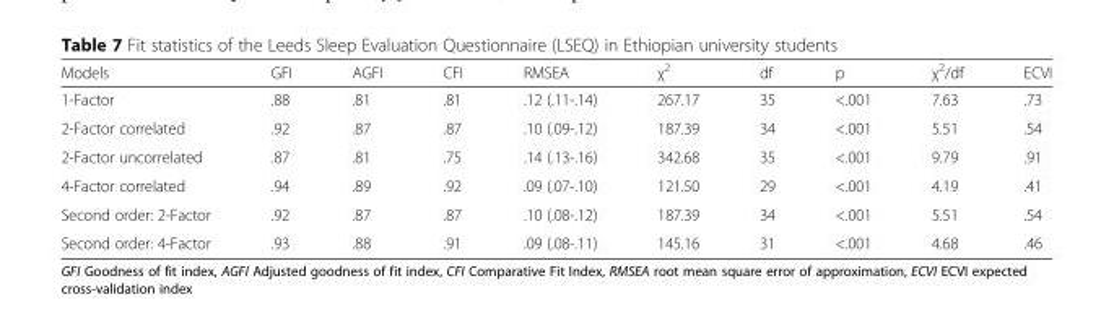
<table><thead><tr><td>Models</td><td>GFI</td><td>AGFI</td><td>CFI</td><td>RMSEA</td><td>χ<sup>2</sup></td><td>df</td><td>p</td><td>χ<sup>2</sup>/df</td><td>ECVI</td></tr></thead><tbody><tr><td>1-Factor</td><td>.88</td><td>.81</td><td>.81</td><td>.12 (.11-.14)</td><td>267.17</td><td>35</td><td>&lt;.001</td><td>7.63</td><td>.73</td></tr><tr><td>2-Factor correlated</td><td>.92</td><td>.87</td><td>.87</td><td>.10 (.09-.12)</td><td>187.39</td><td>34</td><td>&lt;.001</td><td>5.51</td><td>.54</td></tr><tr><td>2-Factor uncorrelated</td><td>.87</td><td>.81</td><td>.75</td><td>.14 (.13-.16)</td><td>342.68</td><td>35</td><td>&lt;.001</td><td>9.79</td><td>.91</td></tr><tr><td>4-Factor correlated</td><td>.94</td><td>.89</td><td>.92</td><td>.09 (.07-.10)</td><td>121.50</td><td>29</td><td>&lt;.001</td><td>4.19</td><td>.41</td></tr><tr><td>Second order: 2-Factor</td><td>.92</td><td>.87</td><td>.87</td><td>.10 (.08-.12)</td><td>187.39</td><td>34</td><td>&lt;.001</td><td>5.51</td><td>.54</td></tr><tr><td>Second order: 4-Factor</td><td>.93</td><td>.88</td><td>.91</td><td>.09 (.08-.11)</td><td>145.16</td><td>31</td><td>&lt;.001</td><td>4.68</td><td>.46</td></tr></tbody></table>